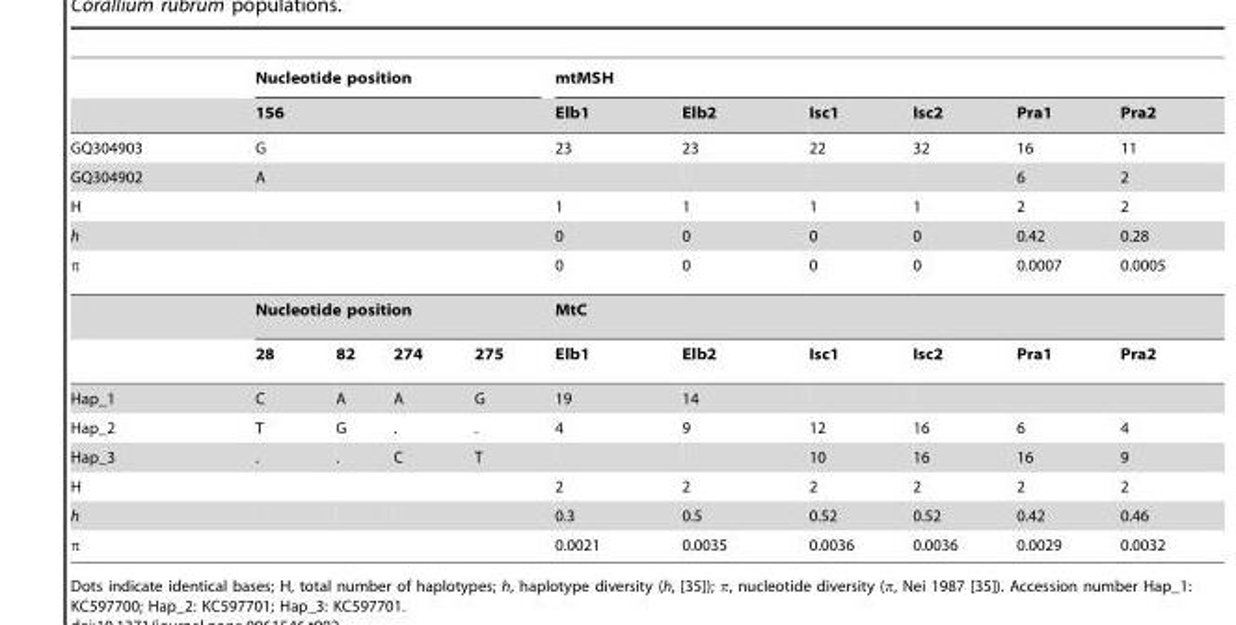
<table><thead><tr><td rowspan="2"></td><td rowspan="2" colspan="4">Nucleotide position 156</td><td colspan="6">mtMSH</td></tr><tr><td>Elb1</td><td>Elb2</td><td>Isc1</td><td>Isc2</td><td>Pra1</td><td>Pra2</td></tr></thead><tbody><tr><td>GQ304903</td><td colspan="4">G</td><td>23</td><td>23</td><td>22</td><td>32</td><td>16</td><td>11</td></tr><tr><td>GQ304902</td><td colspan="4">A</td><td></td><td></td><td></td><td></td><td>6</td><td>2</td></tr><tr><td>H</td><td colspan="4"></td><td>1</td><td>1</td><td>1</td><td>1</td><td>2</td><td>2</td></tr><tr><td>h</td><td colspan="4"></td><td>0</td><td>0</td><td>0</td><td>0</td><td>0.42</td><td>0.28</td></tr><tr><td rowspan="3">π</td><td colspan="4"></td><td>0</td><td>0</td><td>0</td><td>0</td><td>0.0007</td><td>0.0005</td></tr><tr><td colspan="4">Nucleotide position</td><td colspan="6">MtC</td></tr><tr><td>28</td><td>82</td><td>274</td><td>275</td><td>Elb1</td><td>Elb2</td><td>Isc1</td><td>Isc2</td><td>Pra1</td><td>Pra2</td></tr><tr><td>Hap_1</td><td>C</td><td>A</td><td>A</td><td>G</td><td>19</td><td>14</td><td></td><td></td><td></td><td></td></tr><tr><td>Hap_2</td><td>T</td><td>G</td><td>.</td><td>.</td><td>4</td><td>9</td><td>12</td><td>16</td><td>6</td><td>4</td></tr><tr><td>Hap_3</td><td>.</td><td>.</td><td>C</td><td>T</td><td></td><td></td><td>10</td><td>16</td><td>16</td><td>9</td></tr><tr><td>H</td><td></td><td></td><td></td><td></td><td>2</td><td>2</td><td>2</td><td>2</td><td>2</td><td>2</td></tr><tr><td>h</td><td></td><td></td><td></td><td></td><td>0.3</td><td>0.5</td><td>0.52</td><td>0.52</td><td>0.42</td><td>0.46</td></tr><tr><td>π</td><td></td><td></td><td></td><td></td><td>0.0021</td><td>0.0035</td><td>0.0036</td><td>0.0036</td><td>0.0029</td><td>0.0032</td></tr></tbody></table>